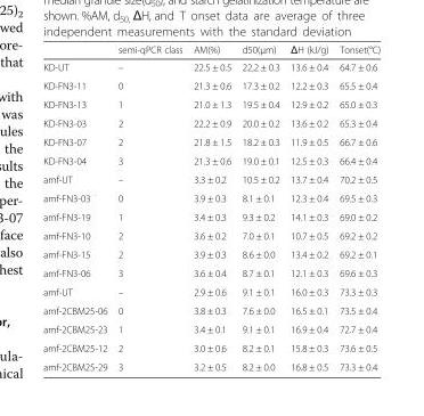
<table><thead><tr><td></td><td>semi-qPCR class</td><td>AM(%)</td><td>d50(μm)</td><td>ΔH (kJ/g)</td><td>Tonset(°C)</td></tr></thead><tbody><tr><td>KD-UT</td><td>–</td><td>22.5 ± 0.5</td><td>22,2 ± 0.3</td><td>13.6 ± 0.4</td><td>64.7 ± 0.6</td></tr><tr><td>KD-FN3-11</td><td>0</td><td>21.3 ± 0.6</td><td>17.3 ± 0.2</td><td>12.2 ± 0.3</td><td>65.5 ± 0.4</td></tr><tr><td>KD-FN3-13</td><td>1</td><td>21.0 ± 1.3</td><td>19.5 ± 0.4</td><td>12.9 ± 0.2</td><td>65.0 ± 0.3</td></tr><tr><td>KD-FN3-03</td><td>2</td><td>22.2 ± 0.9</td><td>20.0 ± 0.2</td><td>13.6 ± 0.2</td><td>65.3 ± 0.4</td></tr><tr><td>KD-FN3-07</td><td>2</td><td>21.8 ± 1.5</td><td>18.2 ± 0.3</td><td>11.9 ± 0.5</td><td>66.7 ± 0.6</td></tr><tr><td>KD-FN3-04</td><td>3</td><td>21.3 ± 0.6</td><td>19.0 ± 0.1</td><td>12.5 ± 0.3</td><td>66.4 ± 0.4</td></tr><tr><td>amf-UT</td><td>–</td><td>3.3 ± 0.2</td><td>10.5 ± 0.2</td><td>13.7 ± 0.4</td><td>70.2 ± 0.5</td></tr><tr><td>amf-FN3-03</td><td>0</td><td>3.9 ± 0.3</td><td>8.1 ± 0.1</td><td>12.3 ± 0.4</td><td>69.5 ± 0.3</td></tr><tr><td>amf-FN3-19</td><td>1</td><td>3.4 ± 0.3</td><td>9.3 ± 0.2</td><td>14.1 ± 0.3</td><td>69.0 ± 0.2</td></tr><tr><td>amf-FN3-10</td><td>2</td><td>3.6 ± 0.2</td><td>7.0 ± 0.1</td><td>10.7 ± 0.5</td><td>69.2 ± 0.2</td></tr><tr><td>amf-FN3-15</td><td>2</td><td>3.9 ± 0.3</td><td>8.6 ± 0.0</td><td>13.4 ± 0.2</td><td>69.2 ± 0.1</td></tr><tr><td>amf-FN3-06</td><td>3</td><td>3.6 ± 0.4</td><td>8.7 ± 0.1</td><td>12.1 ± 0.3</td><td>69.6 ± 0.3</td></tr><tr><td>amf-UT</td><td>–</td><td>2.9 ± 0.6</td><td>9.1 ± 0.1</td><td>16.0 ± 0.3</td><td>73.3 ± 0.3</td></tr><tr><td>amf-2CBM25-06</td><td>0</td><td>3.8 ± 0.3</td><td>7.6 ± 0.0</td><td>16.5 ± 0.1</td><td>73.5 ± 0.4</td></tr><tr><td>amf-2CBM25-23</td><td>1</td><td>3.4 ± 0.1</td><td>9.1 ± 0.1</td><td>16.9 ± 0.4</td><td>72.7 ± 0.4</td></tr><tr><td>amf-2CBM25-12</td><td>2</td><td>3.0 ± 0.6</td><td>8.2 ± 0.1</td><td>15.8 ± 0.3</td><td>73.6 ± 0.5</td></tr><tr><td>amf-2CBM25-29</td><td>3</td><td>3.2 ± 0.5</td><td>8.2 ± 0.0</td><td>16.8 ± 0.5</td><td>73.3 ± 0.4</td></tr></tbody></table>